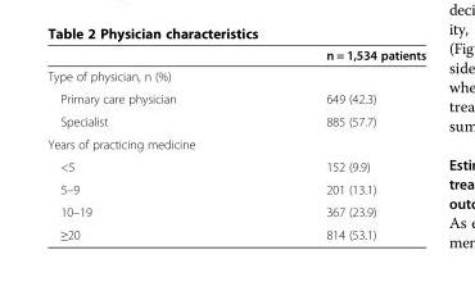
<table><thead><tr><td></td><td>n = 1,534 patients</td></tr></thead><tbody><tr><td colspan="2">Type of physician, n (%)</td></tr><tr><td>Primary care physician</td><td>649 (42.3)</td></tr><tr><td>Specialist</td><td>885 (57.7)</td></tr><tr><td colspan="2">Years of practicing medicine</td></tr><tr><td>&lt;5</td><td>152 (9.9)</td></tr><tr><td>5–9</td><td>201 (13.1)</td></tr><tr><td>10–19</td><td>367 (23.9)</td></tr><tr><td>≥20</td><td>814 (53.1)</td></tr></tbody></table>